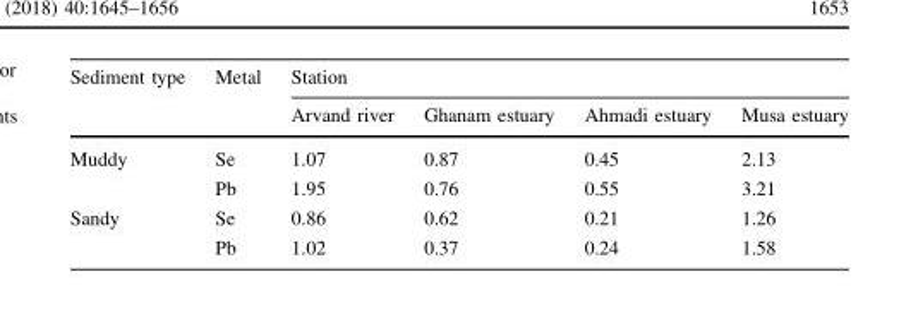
<table><thead><tr><td rowspan="2">Sediment type</td><td rowspan="2">Metal</td><td colspan="4">Station</td></tr><tr><td>Arvand river</td><td>Ghanam estuary</td><td>Ahmadi estuary</td><td>Musa estuary</td></tr></thead><tbody><tr><td rowspan="2">Muddy</td><td>Se</td><td>1.07</td><td>0.87</td><td>0.45</td><td>2.13</td></tr><tr><td>Pb</td><td>1.95</td><td>0.76</td><td>0.55</td><td>3.21</td></tr><tr><td rowspan="2">Sandy</td><td>Se</td><td>0.86</td><td>0.62</td><td>0.21</td><td>1.26</td></tr><tr><td>Pb</td><td>1.02</td><td>0.37</td><td>0.24</td><td>1.58</td></tr></tbody></table>